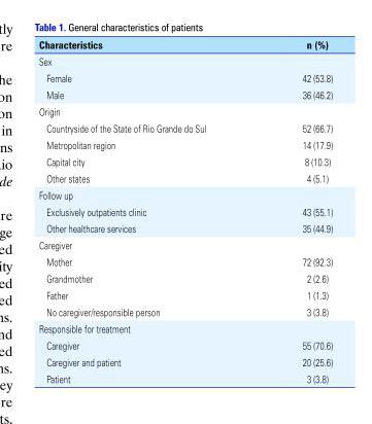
<table><thead><tr><td>Characteristics</td><td>n (%)</td></tr></thead><tbody><tr><td colspan="2">Sex</td></tr><tr><td>Female</td><td>42 (53.8)</td></tr><tr><td>Male</td><td>36 (46.2)</td></tr><tr><td colspan="2">Origin</td></tr><tr><td>Countryside of the State of Rio Grande do Sul</td><td>52 (66.7)</td></tr><tr><td>Metropolitan region</td><td>14 (17.9)</td></tr><tr><td>Capital city</td><td>8 (10.3)</td></tr><tr><td>Other states</td><td>4 (5.1)</td></tr><tr><td colspan="2">Follow up</td></tr><tr><td>Exclusively outpatients clinic</td><td>43 (55.1)</td></tr><tr><td>Other healthcare services</td><td>35 (44.9)</td></tr><tr><td colspan="2">Caregiver</td></tr><tr><td>Mother</td><td>72 (92.3)</td></tr><tr><td>Grandmother</td><td>2 (2.6)</td></tr><tr><td>Father</td><td>1 (1.3)</td></tr><tr><td>No caregiver/responsible person</td><td>3 (3.8)</td></tr><tr><td colspan="2">Responsible for treatment</td></tr><tr><td>Caregiver</td><td>55 (70.6)</td></tr><tr><td>Caregiver and patient</td><td>20 (25.6)</td></tr><tr><td>Patient</td><td>3 (3.8)</td></tr></tbody></table>